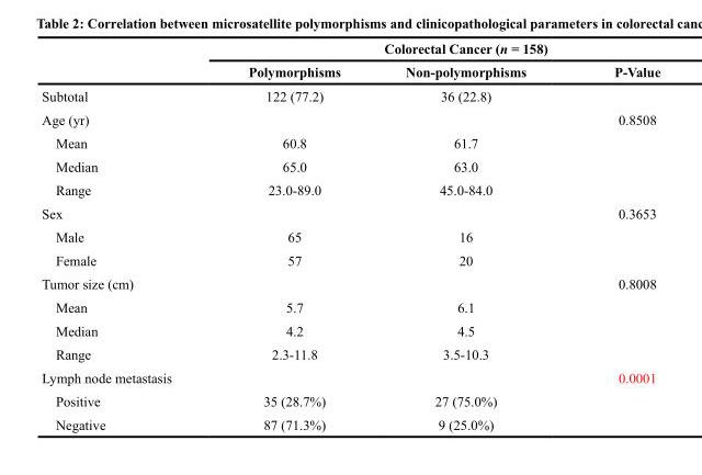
<table><thead><tr><td rowspan="2"></td><td colspan="3">Colorectal Cancer (n = 158)</td></tr><tr><td>Polymorphisms</td><td>Non-polymorphisms</td><td>P-Value</td></tr></thead><tbody><tr><td>Subtotal</td><td>122 (77.2)</td><td>36 (22.8)</td><td></td></tr><tr><td>Age (yr)</td><td></td><td></td><td>0.8508</td></tr><tr><td>Mean</td><td>60.8</td><td>61.7</td><td></td></tr><tr><td>Median</td><td>65.0</td><td>63.0</td><td></td></tr><tr><td>Range</td><td>23.0-89.0</td><td>45.0-84.0</td><td></td></tr><tr><td>Sex</td><td></td><td></td><td>0.3653</td></tr><tr><td>Male</td><td>65</td><td>16</td><td></td></tr><tr><td>Female</td><td>57</td><td>20</td><td></td></tr><tr><td>Tumor size (cm)</td><td></td><td></td><td>0.8008</td></tr><tr><td>Mean</td><td>5.7</td><td>6.1</td><td></td></tr><tr><td>Median</td><td>4.2</td><td>4.5</td><td></td></tr><tr><td>Range</td><td>2.3-11.8</td><td>3.5-10.3</td><td></td></tr><tr><td>Lymph node metastasis</td><td></td><td></td><td>0.0001</td></tr><tr><td>Positive</td><td>35 (28.7%)</td><td>27 (75.0%)</td><td></td></tr><tr><td>Negative</td><td>87 (71.3%)</td><td>9 (25.0%)</td><td></td></tr></tbody></table>